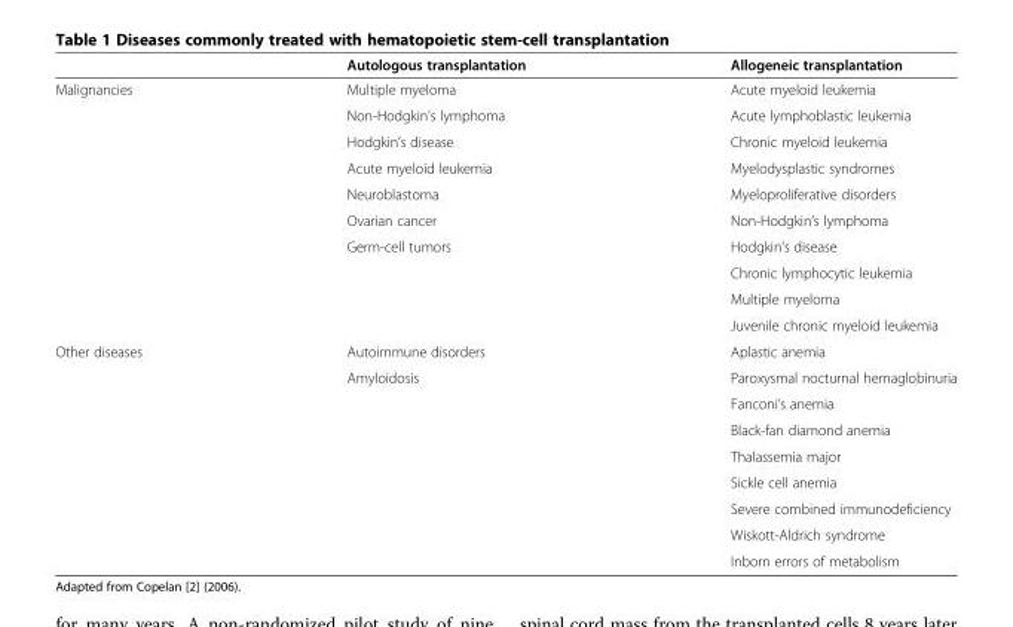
<table><thead><tr><td></td><td>Autologous transplantation</td><td>Allogeneic transplantation</td></tr></thead><tbody><tr><td rowspan="10">Malignancies</td><td>Multiple myeloma</td><td>Acute myeloid leukemia</td></tr><tr><td>Non-Hodgkin’s lymphoma</td><td>Acute lymphoblastic leukemia</td></tr><tr><td>Hodgkin’s disease</td><td>Chronic myeloid leukemia</td></tr><tr><td>Acute myeloid leukemia</td><td>Myelodysplastic syndromes</td></tr><tr><td>Neuroblastoma</td><td>Myeloproliferative disorders</td></tr><tr><td>Ovarian cancer</td><td>Non-Hodgkin’s lymphoma</td></tr><tr><td>Germ-cell tumors</td><td>Hodgkin’s disease</td></tr><tr><td></td><td>Chronic lymphocytic leukemia</td></tr><tr><td></td><td>Multiple myeloma</td></tr><tr><td></td><td>Juvenile chronic myeloid leukemia</td></tr><tr><td rowspan="9">Other diseases</td><td>Autoimmune disorders</td><td>Aplastic anemia</td></tr><tr><td>Amyloidosis</td><td>Paroxysmal nocturnal hemaglobinuria</td></tr><tr><td></td><td>Fanconi’s anemia</td></tr><tr><td></td><td>Black-fan diamond anemia</td></tr><tr><td></td><td>Thalassemia major</td></tr><tr><td></td><td>Sickle cell anemia</td></tr><tr><td></td><td>Severe combined immunodeficiency</td></tr><tr><td></td><td>Wiskott-Aldrich syndrome</td></tr><tr><td></td><td>Inborn errors of metabolism</td></tr></tbody></table>